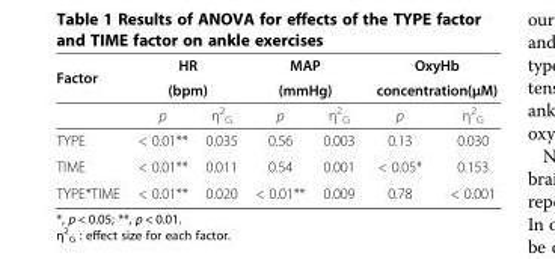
<table><thead><tr><td rowspan="3">Factor</td><td rowspan="2" colspan="2">HR (bpm)</td><td rowspan="2" colspan="2">MAP (mmHg)</td><td rowspan="2" colspan="2">OxyHb concentration(μM)</td></tr><tr></tr><tr><td>p</td><td>η<sup>2</sup> <sub>G</sub></td><td>p</td><td>η<sup>2</sup> <sub>G</sub></td><td>p</td><td>η<sup>2</sup> <sub>G</sub></td></tr></thead><tbody><tr><td>TYPE</td><td>&lt; 0.01**</td><td>0.035</td><td>0.56</td><td>0.003</td><td>0.13</td><td>0.030</td></tr><tr><td>TIME</td><td>&lt; 0.01**</td><td>0.011</td><td>0.54</td><td>0.001</td><td>&lt; 0.05*</td><td>0.153</td></tr><tr><td>TYPE*TIME</td><td>&lt; 0.01**</td><td>0.020</td><td>&lt; 0.01**</td><td>0.009</td><td>0.78</td><td>&lt; 0.001</td></tr></tbody></table>